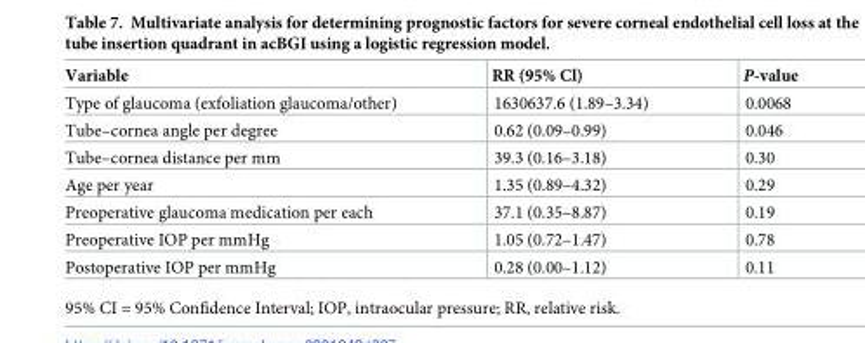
<table><thead><tr><td>Variable</td><td>RR (95% Cl)</td><td>P-value</td></tr></thead><tbody><tr><td>Type of glaucoma (exfoliation glaucoma/other)</td><td>1630637.6 (1.89–3.34)</td><td>0.0068</td></tr><tr><td>Tube–cornea angle per degree</td><td>0.62 (0.09–0.99)</td><td>0.046</td></tr><tr><td>Tube–cornea distance per mm</td><td>39.3 (0.16–3.18)</td><td>0.30</td></tr><tr><td>Age per year</td><td>1.35 (0.89–4.32)</td><td>0.29</td></tr><tr><td>Preoperative glaucoma medication per each</td><td>37.1 (0.35–8.87)</td><td>0.19</td></tr><tr><td>Preoperative IOP per mmHg</td><td>1.05 (0.72–1.47)</td><td>0.78</td></tr><tr><td>Postoperative IOP per mmHg</td><td>0.28 (0.00–1.12)</td><td>0.11</td></tr></tbody></table>